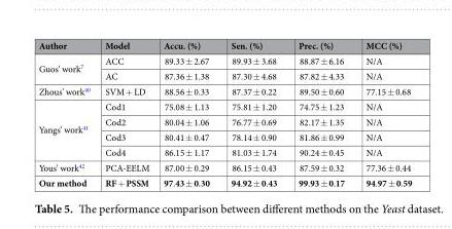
<table><thead><tr><td>Author</td><td>Model</td><td>Accu. (%)</td><td>Sen. (%)</td><td>Prec. (%)</td><td>MCC (%)</td></tr></thead><tbody><tr><td rowspan="2">Guos’ work<sup>7</sup></td><td>ACC</td><td>89.33 ± 2.67</td><td>89.93 ± 3.68</td><td>88.87 ± 6.16</td><td>N/A</td></tr><tr><td>AC</td><td>87.36 ± 1.38</td><td>87.30 ± 4.68</td><td>87.82 ± 4.33</td><td>N/A</td></tr><tr><td>Zhous’ work<sup>40</sup></td><td>SVM + LD</td><td>88.56 ± 0.33</td><td>87.37 ± 0.22</td><td>89.50 ± 0.60</td><td>77.15 ± 0.68</td></tr><tr><td rowspan="4">Yangs’ work<sup>41</sup></td><td>Cod1</td><td>75.08 ± 1.13</td><td>75.81 ± 1.20</td><td>74.75 ± 1.23</td><td>N/A</td></tr><tr><td>Cod2</td><td>80.04 ± 1.06</td><td>76.77 ± 0.69</td><td>82.17 ± 1.35</td><td>N/A</td></tr><tr><td>Cod3</td><td>80.41 ± 0.47</td><td>78.14 ± 0.90</td><td>81.86 ± 0.99</td><td>N/A</td></tr><tr><td>Cod4</td><td>86.15 ± 1.17</td><td>81.03 ± 1.74</td><td>90.24 ± 0.45</td><td>N/A</td></tr><tr><td>Yous’ work<sup>42</sup></td><td>PCA-EELM</td><td>87.00 ± 0.29</td><td>86.15 ± 0.43</td><td>87.59 ± 0.32</td><td>77.36 ± 0.44</td></tr><tr><td>Our method</td><td>RF + PSSM</td><td>97.43 ± 0.30</td><td>94.92 ± 0.43</td><td>99.93 ± 0.17</td><td>94.97 ± 0.59</td></tr></tbody></table>